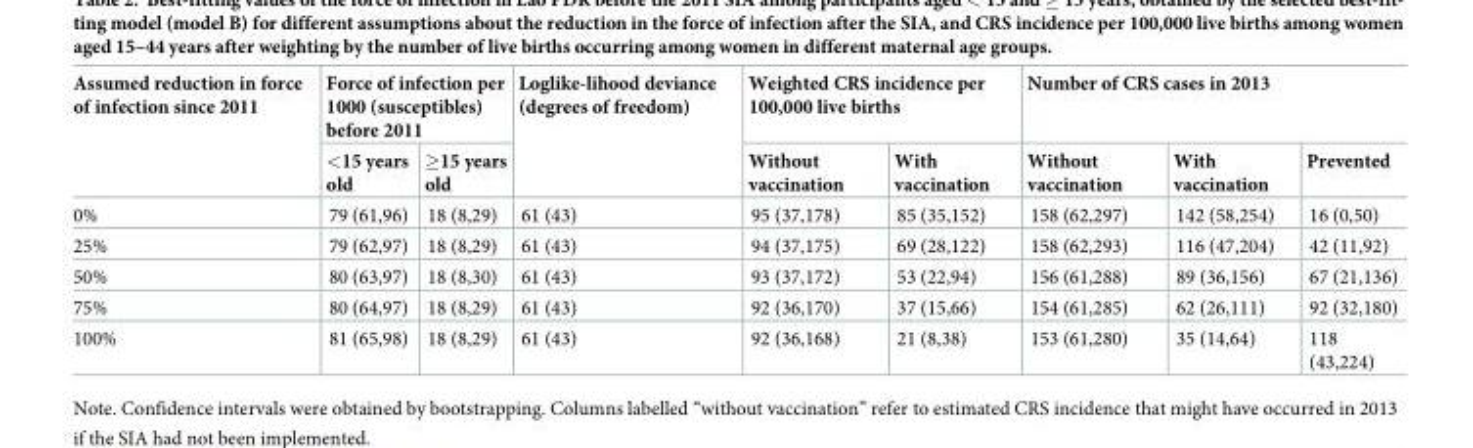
<table><thead><tr><td rowspan="2">Assumed reduction in force of infection since 2011</td><td colspan="2">Force of infection per 1000 (susceptibles) before 2011</td><td rowspan="2">Loglike-lihood deviance (degrees of freedom)</td><td colspan="2">Weighted CRS incidence per 100,000 live births</td><td colspan="3">Number of CRS cases in 2013</td></tr><tr><td>&lt;15 years old</td><td>≥15 years old</td><td>Without vaccination</td><td>With vaccination</td><td>Without vaccination</td><td>With vaccination</td><td>Prevented</td></tr></thead><tbody><tr><td>0%</td><td>79 (61,96)</td><td>18 (8,29)</td><td>61 (43)</td><td>95 (37,178)</td><td>85 (35,152)</td><td>158 (62,297)</td><td>142 (58,254)</td><td>16 (0,50)</td></tr><tr><td>25%</td><td>79 (62,97)</td><td>18 (8,29)</td><td>61 (43)</td><td>94 (37,175)</td><td>69 (28,122)</td><td>158 (62,293)</td><td>116 (47,204)</td><td>42 (11,92)</td></tr><tr><td>50%</td><td>80 (63,97)</td><td>18 (8,30)</td><td>61 (43)</td><td>93 (37,172)</td><td>53 (22,94)</td><td>156 (61,288)</td><td>89 (36,156)</td><td>67 (21,136)</td></tr><tr><td>75%</td><td>80 (64,97)</td><td>18 (8,29)</td><td>61 (43)</td><td>92 (36,170)</td><td>37 (15,66)</td><td>154 (61,285)</td><td>62 (26,111)</td><td>92 (32,180)</td></tr><tr><td>100%</td><td>81 (65,98)</td><td>18 (8,29)</td><td>61 (43)</td><td>92 (36,168)</td><td>21 (8,38)</td><td>153 (61,280)</td><td>35 (14,64)</td><td>118 (43,224)</td></tr></tbody></table>